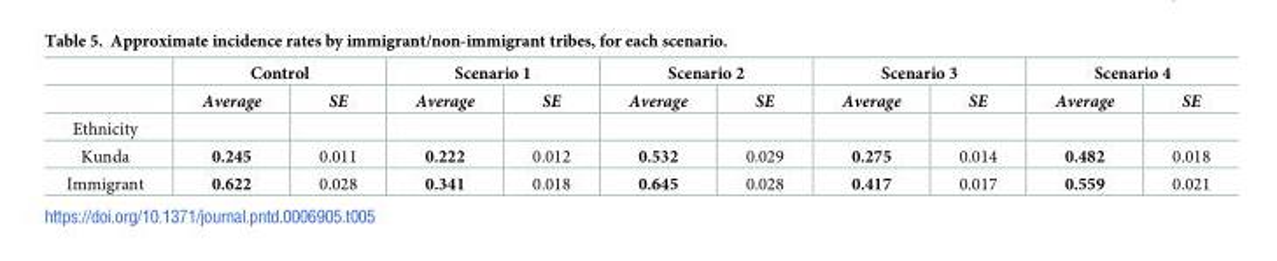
<table><thead><tr><td rowspan="2"></td><td colspan="2">Control</td><td colspan="2">Scenario 1</td><td colspan="2">Scenario 2</td><td colspan="2">Scenario 3</td><td colspan="2">Scenario 4</td></tr><tr><td>Average</td><td>SE</td><td>Average</td><td>SE</td><td>Average</td><td>SE</td><td>Average</td><td>SE</td><td>Average</td><td>SE</td></tr></thead><tbody><tr><td colspan="11">Ethnicity</td></tr><tr><td>Kunda</td><td>0.245</td><td>0.011</td><td>0.222</td><td>0.012</td><td>0.532</td><td>0.029</td><td>0.275</td><td>0.014</td><td>0.482</td><td>0.018</td></tr><tr><td>Immigrant</td><td>0.622</td><td>0.028</td><td>0.341</td><td>0.018</td><td>0.645</td><td>0.028</td><td>0.417</td><td>0.017</td><td>0.559</td><td>0.021</td></tr></tbody></table>